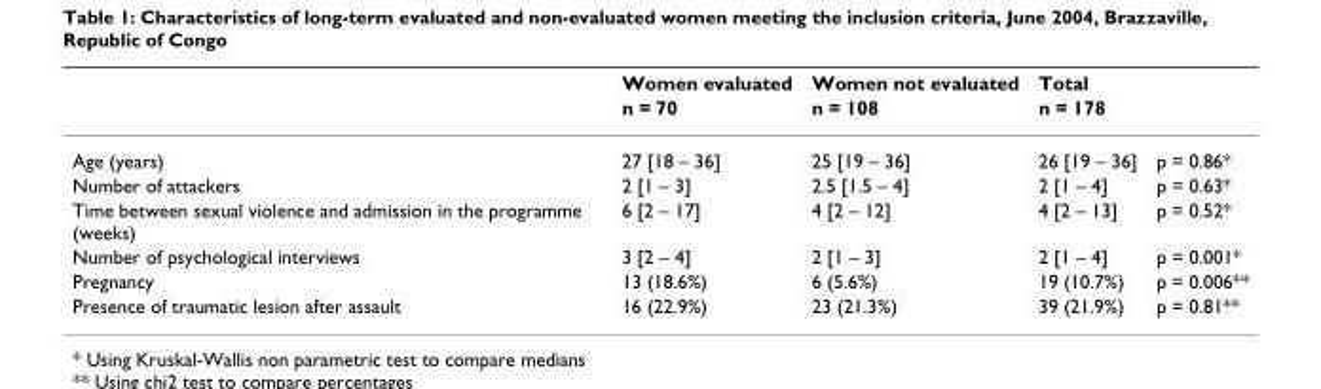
<table><thead><tr><td rowspan="3">Age (years)</td><td rowspan="3">Women evaluated n = 70 27 [18 – 36]</td><td rowspan="3">Women not evaluated n = 108 25 [19 – 36]</td><td rowspan="2" colspan="2">Total n = 178</td></tr><tr></tr><tr><td>26 [19 – 36]</td><td>p = 0.86*</td></tr></thead><tbody><tr><td>Number of attackers</td><td>2 [1 – 3]</td><td>2.5 [1.5 – 4]</td><td>2 [1 – 4]</td><td>p = 0.63*</td></tr><tr><td>Time between sexual violence and admission in the programme (weeks)</td><td>6 [2 – 17]</td><td>4 [2 – 12]</td><td>4 [2 – 13]</td><td>p = 0.52*</td></tr><tr><td>Number of psychological interviews</td><td>3 [2 – 4]</td><td>2 [1 – 3]</td><td>2 [1 – 4]</td><td>p = 0.001*</td></tr><tr><td>Pregnancy</td><td>13 (18.6%)</td><td>6 (5.6%)</td><td>19 (10.7%)</td><td>p = 0.006**</td></tr><tr><td>Presence of traumatic lesion after assault</td><td>16 (22.9%)</td><td>23 (21.3%)</td><td>39 (21.9%)</td><td>p = 0.81**</td></tr></tbody></table>